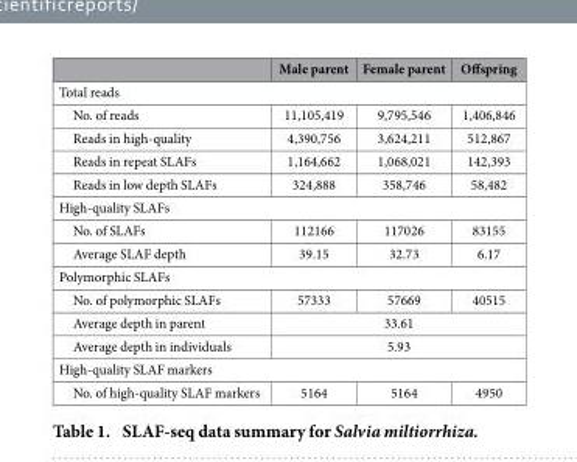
<table><thead><tr><td></td><td>Male parent</td><td>Female parent</td><td>Offspring</td></tr></thead><tbody><tr><td colspan="4">Total reads</td></tr><tr><td>No. of reads</td><td>11,105,419</td><td>9,795,546</td><td>1,406,846</td></tr><tr><td>Reads in high-quality</td><td>4,390,756</td><td>3,624,211</td><td>512,867</td></tr><tr><td>Reads in repeat SLAFs</td><td>1,164,662</td><td>1,068,021</td><td>142,393</td></tr><tr><td>Reads in low depth SLAFs</td><td>324,888</td><td>358,746</td><td>58,482</td></tr><tr><td colspan="4">High-quality SLAFs</td></tr><tr><td>No. of SLAFs</td><td>112166</td><td>117026</td><td>83155</td></tr><tr><td>Average SLAF depth</td><td>39.15</td><td>32.73</td><td>6.17</td></tr><tr><td colspan="4">Polymorphic SLAFs</td></tr><tr><td>No. of polymorphic SLAFs</td><td>57333</td><td>57669</td><td>40515</td></tr><tr><td>Average depth in parent</td><td colspan="3">33.61</td></tr><tr><td>Average depth in individuals</td><td colspan="3">5.93</td></tr><tr><td colspan="4">High-quality SLAF markers</td></tr><tr><td>No. of high-quality SLAF markers</td><td>5164</td><td>5164</td><td>4950</td></tr></tbody></table>